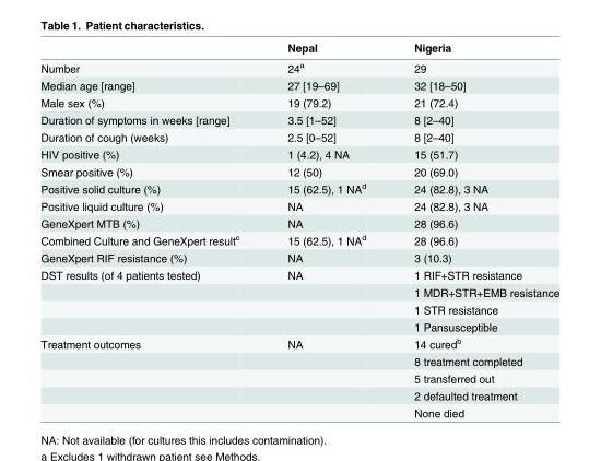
<table><thead><tr><td></td><td>Nepal</td><td>Nigeria</td></tr></thead><tbody><tr><td>Number</td><td>24<sup>a</sup></td><td>29</td></tr><tr><td>Median age [range]</td><td>27 [19–69]</td><td>32 [18–50]</td></tr><tr><td>Male sex (%)</td><td>19 (79.2)</td><td>21 (72.4)</td></tr><tr><td>Duration of symptoms in weeks [range]</td><td>3.5 [1–52]</td><td>8 [2–40]</td></tr><tr><td>Duration of cough (weeks)</td><td>2.5 [0–52]</td><td>8 [2–40]</td></tr><tr><td>HIV positive (%)</td><td>1 (4.2), 4 NA</td><td>15 (51.7)</td></tr><tr><td>Smear positive (%)</td><td>12 (50)</td><td>20 (69.0)</td></tr><tr><td>Positive solid culture (%)</td><td>15 (62.5), 1 NA<sup>d</sup></td><td>24 (82.8), 3 NA</td></tr><tr><td>Positive liquid culture (%)</td><td>NA</td><td>24 (82.8), 3 NA</td></tr><tr><td>GeneXpert MTB (%)</td><td>NA</td><td>28 (96.6)</td></tr><tr><td>Combined Culture and GeneXpert result<sup>c</sup></td><td>15 (62.5), 1 NA<sup>d</sup></td><td>28 (96.6)</td></tr><tr><td>GeneXpert RIF resistance (%)</td><td>NA</td><td>3 (10.3)</td></tr><tr><td rowspan="4">DST results (of 4 patients tested)</td><td>NA</td><td>1 RIF+STR resistance</td></tr><tr><td></td><td>1 MDR+STR+EMB resistance</td></tr><tr><td></td><td>1 STR resistance</td></tr><tr><td></td><td>1 Pansusceptible</td></tr><tr><td rowspan="5">Treatment outcomes</td><td>NA</td><td>14 cured<sup>b</sup></td></tr><tr><td></td><td>8 treatment completed</td></tr><tr><td></td><td>5 transferred out</td></tr><tr><td></td><td>2 defaulted treatment</td></tr><tr><td></td><td>None died</td></tr></tbody></table>